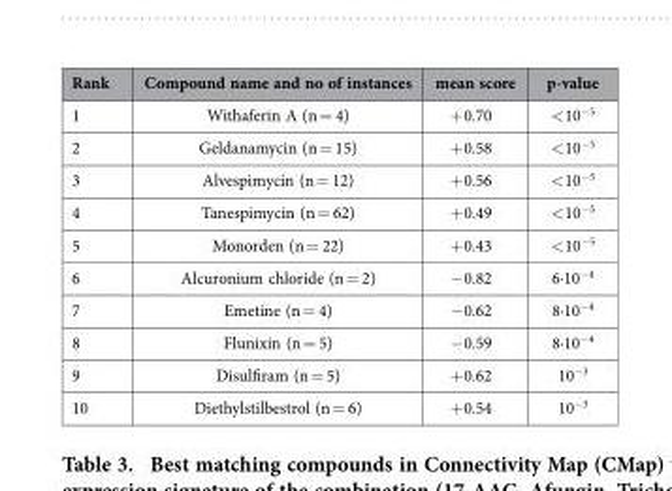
<table><thead><tr><td>Rank</td><td>Compound name and no of instances</td><td>mean score</td><td>p-value</td></tr></thead><tbody><tr><td>1</td><td>Withaferin A (n = 4)</td><td>+ 0.70</td><td>&lt; 10<sup>−5</sup></td></tr><tr><td>2</td><td>Geldanamycin (n = 15)</td><td>+ 0.58</td><td>&lt; 10<sup>−5</sup></td></tr><tr><td>3</td><td>Alvespimycin (n = 12)</td><td>+ 0.56</td><td>&lt; 10<sup>−5</sup></td></tr><tr><td>4</td><td>Tanespimycin (n = 62)</td><td>+ 0.49</td><td>&lt; 10<sup>−5</sup></td></tr><tr><td>5</td><td>Monorden (n = 22)</td><td>+ 0.43</td><td>&lt; 10<sup>−5</sup></td></tr><tr><td>6</td><td>Alcuronium chloride (n = 2)</td><td>− 0.82</td><td>6·10<sup>−4</sup></td></tr><tr><td>7</td><td>Emetine (n = 4)</td><td>− 0.62</td><td>8·10<sup>−4</sup></td></tr><tr><td>8</td><td>Flunixin (n = 5)</td><td>− 0.59</td><td>8·10<sup>−4</sup></td></tr><tr><td>9</td><td>Disulfiram (n = 5)</td><td>+ 0.62</td><td>10<sup>−3</sup></td></tr><tr><td>10</td><td>Diethylstilbestrol (n = 6)</td><td>+ 0.54</td><td>10<sup>−3</sup></td></tr></tbody></table>